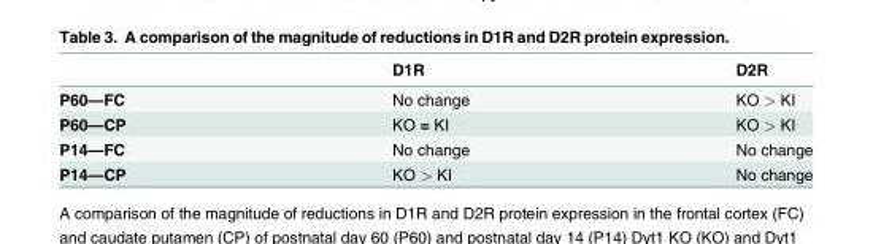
<table><thead><tr><td></td><td>D1R</td><td>D2R</td></tr></thead><tbody><tr><td>P60—FC</td><td>No change</td><td>KO &gt; KI</td></tr><tr><td>P60—CP</td><td>KO = KI</td><td>KO &gt; KI</td></tr><tr><td>P14—FC</td><td>No change</td><td>No change</td></tr><tr><td>P14—CP</td><td>KO &gt; KI</td><td>No change</td></tr></tbody></table>